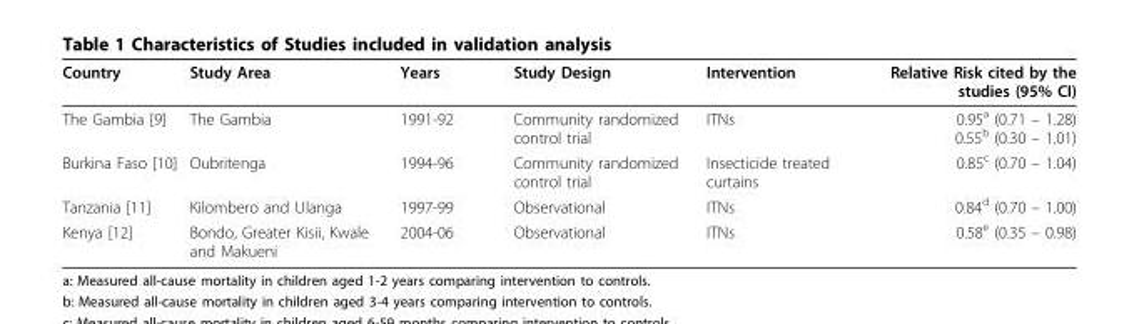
<table><thead><tr><td>Country</td><td>Study Area</td><td>Years</td><td>Study Design</td><td>Intervention</td><td>Relative Risk cited by the studies (95% CI)</td></tr></thead><tbody><tr><td>The Gambia [9]</td><td>The Gambia</td><td>1991-92</td><td>Community randomized control trial</td><td>ITNs</td><td>0.95<sup>a</sup> (0.71 – 1.28) 0.55<sup>b</sup> (0.30 – 1.01)</td></tr><tr><td>Burkina Faso [10]</td><td>Oubritenga</td><td>1994-96</td><td>Community randomized control trial</td><td>Insecticide treated curtains</td><td>0.85<sup>c</sup> (0.70 – 1.04)</td></tr><tr><td>Tanzania [11]</td><td>Kilombero and Ulanga</td><td>1997-99</td><td>Observational</td><td>ITNs</td><td>0.84<sup>d</sup> (0.70 – 1.00)</td></tr><tr><td>Kenya [12]</td><td>Bondo, Greater Kisii, Kwale and Makueni</td><td>2004-06</td><td>Observational</td><td>ITNs</td><td>0.58<sup>e</sup> (0.35 – 0.98)</td></tr></tbody></table>